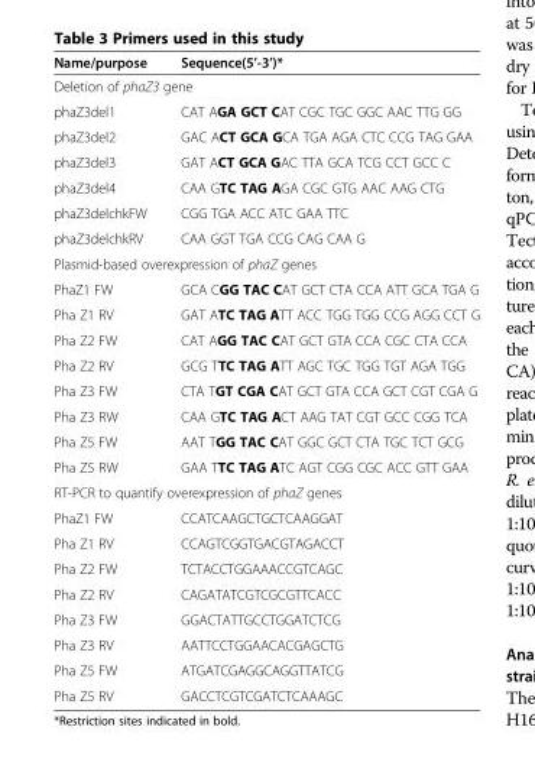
<table><thead><tr><td>Name/purpose</td><td>Sequence(5’-3’)*</td></tr></thead><tbody><tr><td colspan="2">Deletion of phaZ3 gene</td></tr><tr><td>phaZ3del1</td><td>CAT AGA GCT CAT CGC TGC GGC AAC TTG GG</td></tr><tr><td>phaZ3del2</td><td>GAC ACT GCA GCA TGA AGA CTC CCG TAG GAA</td></tr><tr><td>phaZ3del3</td><td>GAT ACT GCA GAC TTA GCA TCG CCT GCC C</td></tr><tr><td>phaZ3del4</td><td>CAA GTC TAG AGA CGC GTG AAC AAG CTG</td></tr><tr><td>phaZ3delchkFW</td><td>CGG TGA ACC ATC GAA TTC</td></tr><tr><td>phaZ3delchkRV</td><td>CAA GGT TGA CCG CAG CAA G</td></tr><tr><td colspan="2">Plasmid-based overexpression of phaZ genes</td></tr><tr><td>PhaZ1 FW</td><td>GCA CGG TAC CAT GCT CTA CCA ATT GCA TGA G</td></tr><tr><td>Pha Z1 RV</td><td>GAT ATC TAG ATT ACC TGG TGG CCG AGG CCT G</td></tr><tr><td>Pha Z2 FW</td><td>CAT AGG TAC CAT GCT GTA CCA CGC CTA CCA</td></tr><tr><td>Pha Z2 RV</td><td>GCG TTC TAG ATT AGC TGC TGG TGT AGA TGG</td></tr><tr><td>Pha Z3 FW</td><td>CTA TGT CGA CAT GCT GTA CCA GCT CGT CGA G</td></tr><tr><td>Pha Z3 RW</td><td>CAA GTC TAG ACT AAG TAT CGT GCC CGG TCA</td></tr><tr><td>Pha Z5 FW</td><td>AAT TGG TAC CAT GGC GCT CTA TGC TCT GCG</td></tr><tr><td>Pha Z5 RW</td><td>GAA TTC TAG ATC AGT CGG CGC ACC GTT GAA</td></tr><tr><td colspan="2">RT-PCR to quantify overexpression of phaZ genes</td></tr><tr><td>PhaZ1 FW</td><td>CCATCAAGCTGCTCAAGGAT</td></tr><tr><td>Pha Z1 RV</td><td>CCAGTCGGTGACGTAGACCT</td></tr><tr><td>Pha Z2 FW</td><td>TCTACCTGGAAACCGTCAGC</td></tr><tr><td>Pha Z2 RV</td><td>CAGATATCGTCGCGTTCACC</td></tr><tr><td>Pha Z3 FW</td><td>GGACTATTGCCTGGATCTCG</td></tr><tr><td>Pha Z3 RV</td><td>AATTCCTGGAACACGAGCTG</td></tr><tr><td>Pha Z5 FW</td><td>ATGATCGAGGCAGGTTATCG</td></tr><tr><td>Pha Z5 RV</td><td>GACCTCGTCGATCTCAAAGC</td></tr></tbody></table>